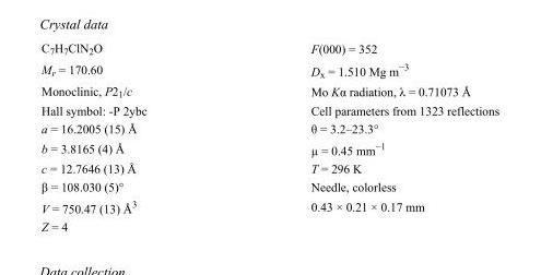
<table><tbody><tr><td>C<sub>7</sub>H<sub>7</sub>ClN<sub>2</sub>O</td><td>F(000) = 352</td></tr><tr><td>M<sub>r</sub> = 170.60</td><td>D<sub>x</sub> = 1.510 Mg m<sup>−3</sup></td></tr><tr><td>Monoclinic, P2<sub>1</sub>/c</td><td>Mo Kα radiation, λ = 0.71073 Å</td></tr><tr><td>Hall symbol: -P 2ybc</td><td>Cell parameters from 1323 reflections</td></tr><tr><td>a = 16.2005 (15) Å</td><td>θ = 3.2–23.3°</td></tr><tr><td>b = 3.8165 (4) Å</td><td>µ = 0.45 mm<sup>−1</sup></td></tr><tr><td>c = 12.7646 (13) Å</td><td>T = 296 K</td></tr><tr><td>β = 108.030 (5)°</td><td>Needle, colorless</td></tr><tr><td>V = 750.47 (13) Å<sup>3</sup></td><td>0.43 × 0.21 × 0.17 mm</td></tr><tr><td>Z = 4</td><td></td></tr></tbody></table>